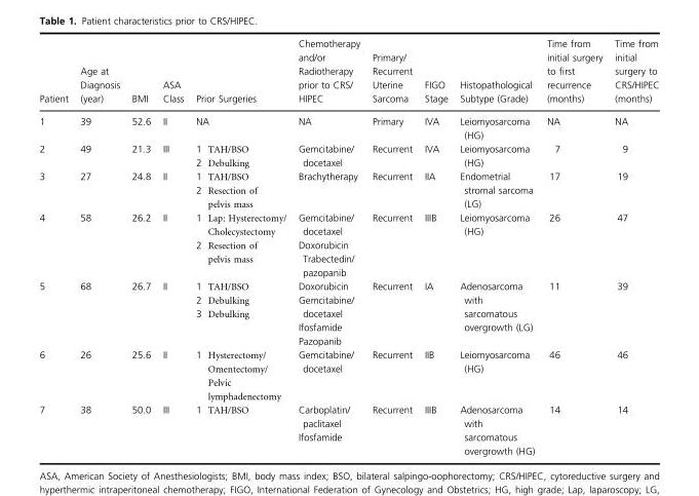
<table><thead><tr><td>Patient</td><td>Age at Diagnosis (year)</td><td>BMI</td><td>ASA Class</td><td>Prior Surgeries</td><td>Chemotherapy and/or Radiotherapy prior to CRS/ HIPEC</td><td>Primary/ Recurrent Uterine Sarcoma</td><td>FIGO Stage</td><td>Histopathological Subtype (Grade)</td><td>Time from initial surgery to first recurrence (months)</td><td>Time from initial surgery to CRS/HIPEC (months)</td></tr></thead><tbody><tr><td>1</td><td>39</td><td>52.6</td><td>II</td><td>NA</td><td>NA</td><td>Primary</td><td>IVA</td><td>Leiomyosarcoma (HG)</td><td>NA</td><td>NA</td></tr><tr><td>2</td><td>49</td><td>21.3</td><td>III</td><td>1 TAH/BSO 2 Debulking</td><td>Gemcitabine/ docetaxel</td><td>Recurrent</td><td>IVA</td><td>Leiomyosarcoma (HG)</td><td>7</td><td>9</td></tr><tr><td>3</td><td>27</td><td>24.8</td><td>II</td><td>1 TAH/BSO 2 Resection of pelvis mass</td><td>Brachytherapy</td><td>Recurrent</td><td>IIA</td><td>Endometrial stromal sarcoma (LG)</td><td>17</td><td>19</td></tr><tr><td>4</td><td>58</td><td>26.2</td><td>II</td><td>1 Lap: Hysterectomy/ Cholecystectomy 2 Resection of pelvis mass</td><td>Gemcitabine/ docetaxel Doxorubicin Trabectedin/ pazopanib</td><td>Recurrent</td><td>IIIB</td><td>Leiomyosarcoma (HG)</td><td>26</td><td>47</td></tr><tr><td>5</td><td>68</td><td>26.7</td><td>II</td><td>1 TAH/BSO 2 Debulking 3 Debulking</td><td>Doxorubicin Gemcitabine/ docetaxel Ifosfamide Pazopanib</td><td>Recurrent</td><td>IA</td><td>Adenosarcoma with sarcomatous overgrowth (LG)</td><td>11</td><td>39</td></tr><tr><td>6</td><td>26</td><td>25.6</td><td>II</td><td>1 Hysterectomy/ Omentectomy/ Pelvic lymphadenectomy</td><td>Gemcitabine/ docetaxel</td><td>Recurrent</td><td>IIB</td><td>Leiomyosarcoma (HG)</td><td>46</td><td>46</td></tr><tr><td>7</td><td>38</td><td>50.0</td><td>III</td><td>1 TAH/BSO</td><td>Carboplatin/ paclitaxel Ifosfamide</td><td>Recurrent</td><td>IIIB</td><td>Adenosarcoma with sarcomatous overgrowth (HG)</td><td>14</td><td>14</td></tr></tbody></table>